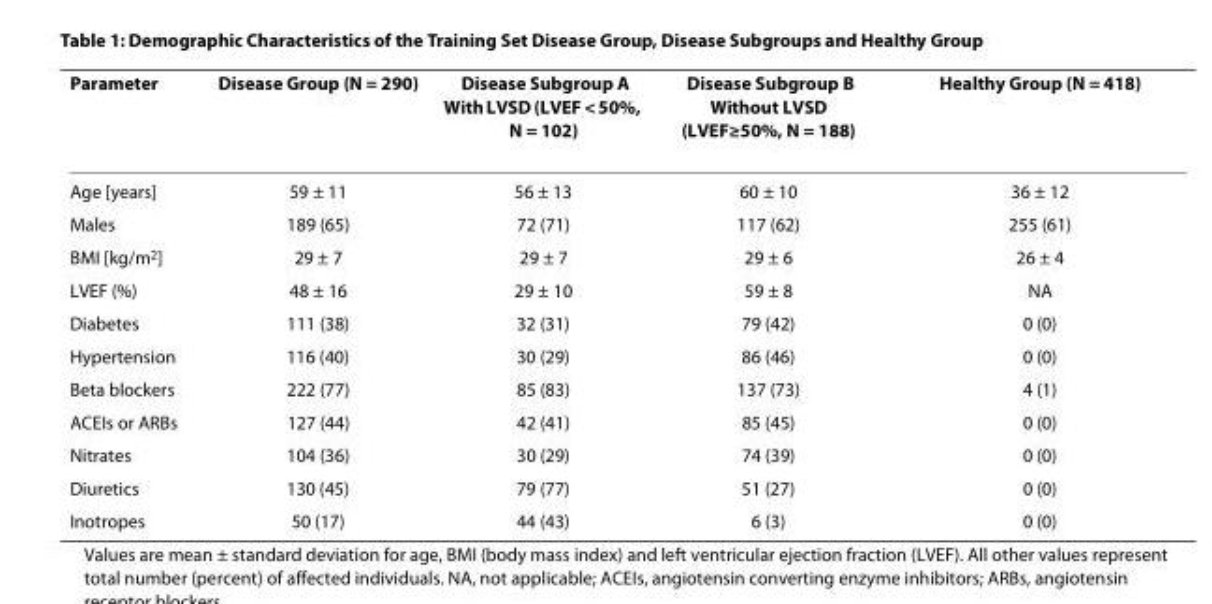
<table><thead><tr><td>Parameter</td><td>Disease Group (N = 290)</td><td>Disease Subgroup A With LVSD (LVEF &lt; 50%, N = 102)</td><td>Disease Subgroup B Without LVSD (LVEF≥50%, N = 188)</td><td>Healthy Group (N = 418)</td></tr></thead><tbody><tr><td>Age [years]</td><td>59 ± 11</td><td>56 ± 13</td><td>60 ± 10</td><td>36 ± 12</td></tr><tr><td>Males</td><td>189 (65)</td><td>72 (71)</td><td>117 (62)</td><td>255 (61)</td></tr><tr><td>BMI [kg/m<sup>2</sup>]</td><td>29 ± 7</td><td>29 ± 7</td><td>29 ± 6</td><td>26 ± 4</td></tr><tr><td>LVEF (%)</td><td>48 ± 16</td><td>29 ± 10</td><td>59 ± 8</td><td>NA</td></tr><tr><td>Diabetes</td><td>111 (38)</td><td>32 (31)</td><td>79 (42)</td><td>0 (0)</td></tr><tr><td>Hypertension</td><td>116 (40)</td><td>30 (29)</td><td>86 (46)</td><td>0 (0)</td></tr><tr><td>Beta blockers</td><td>222 (77)</td><td>85 (83)</td><td>137 (73)</td><td>4 (1)</td></tr><tr><td>ACEIs or ARBs</td><td>127 (44)</td><td>42 (41)</td><td>85 (45)</td><td>0 (0)</td></tr><tr><td>Nitrates</td><td>104 (36)</td><td>30 (29)</td><td>74 (39)</td><td>0 (0)</td></tr><tr><td>Diuretics</td><td>130 (45)</td><td>79 (77)</td><td>51 (27)</td><td>0 (0)</td></tr><tr><td>Inotropes</td><td>50 (17)</td><td>44 (43)</td><td>6 (3)</td><td>0 (0)</td></tr></tbody></table>